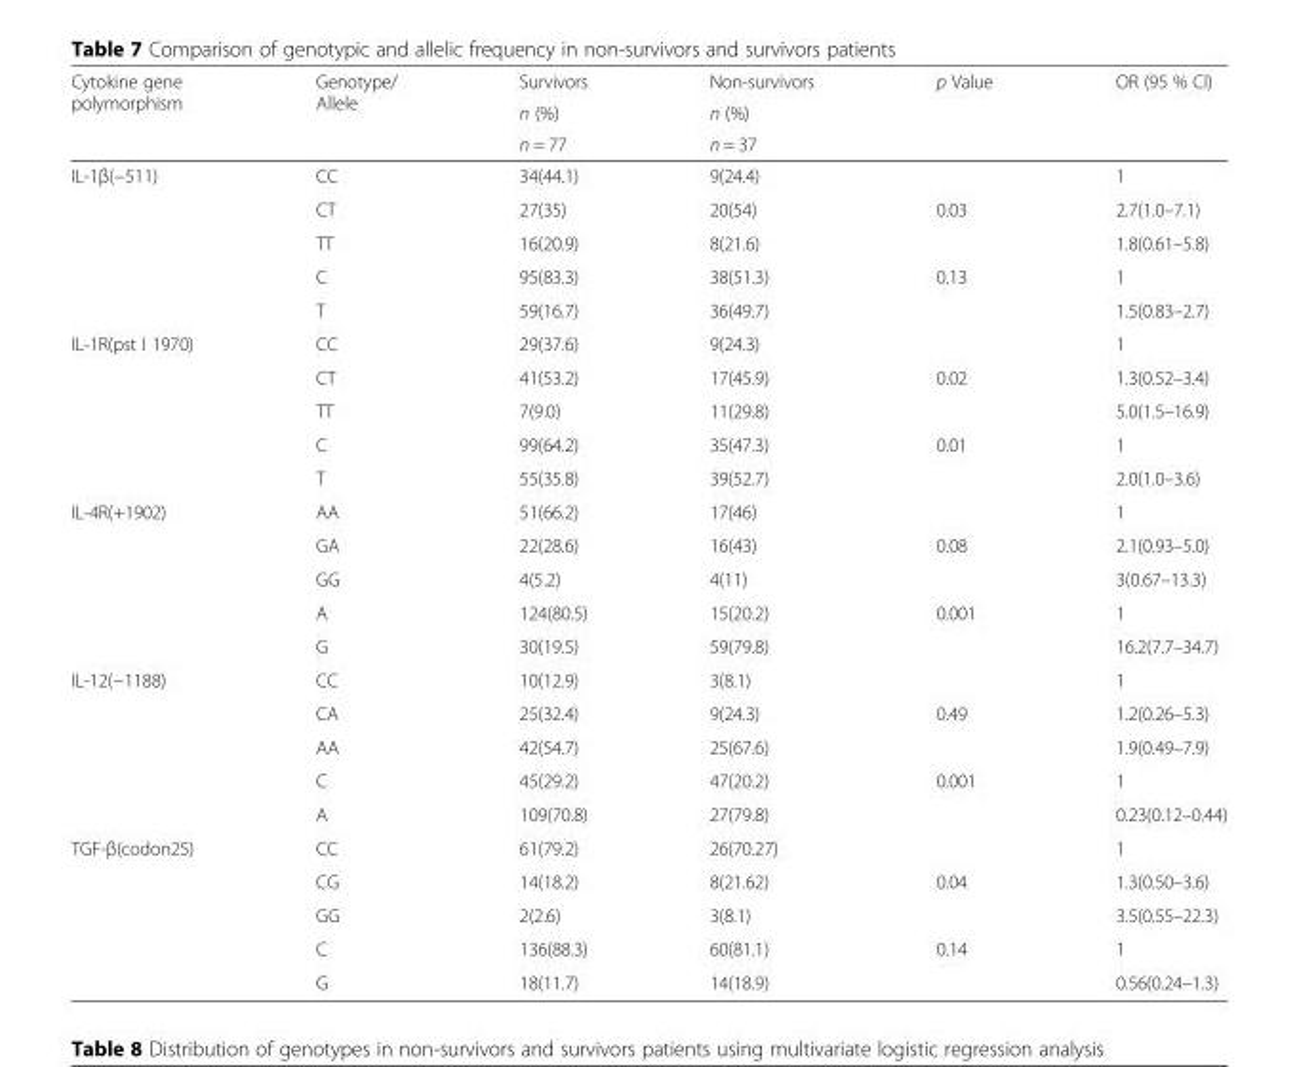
<table><thead><tr><td rowspan="3">Cytokine gene polymorphism</td><td rowspan="3">Genotype/ Allele</td><td rowspan="3">Survivors n (%) n = 77</td><td rowspan="3">Non-survivors n (%) n = 37</td><td rowspan="3">p Value</td><td rowspan="3">OR (95 % CI)</td></tr><tr></tr><tr></tr></thead><tbody><tr><td rowspan="5">IL-1β(−511)</td><td>CC</td><td>34(44.1)</td><td>9(24.4)</td><td></td><td>1</td></tr><tr><td>CT</td><td>27(35)</td><td>20(54)</td><td>0.03</td><td>2.7(1.0–7.1)</td></tr><tr><td>TT</td><td>16(20.9)</td><td>8(21.6)</td><td></td><td>1.8(0.61–5.8)</td></tr><tr><td>C</td><td>95(83.3)</td><td>38(51.3)</td><td>0.13</td><td>1</td></tr><tr><td>T</td><td>59(16.7)</td><td>36(49.7)</td><td></td><td>1.5(0.83–2.7)</td></tr><tr><td rowspan="5">IL-1R(pst I 1970)</td><td>CC</td><td>29(37.6)</td><td>9(24.3)</td><td></td><td>1</td></tr><tr><td>CT</td><td>41(53.2)</td><td>17(45.9)</td><td>0.02</td><td>1.3(0.52–3.4)</td></tr><tr><td>TT</td><td>7(9.0)</td><td>11(29.8)</td><td></td><td>5.0(1.5–16.9)</td></tr><tr><td>C</td><td>99(64.2)</td><td>35(47.3)</td><td>0.01</td><td>1</td></tr><tr><td>T</td><td>55(35.8)</td><td>39(52.7)</td><td></td><td>2.0(1.0–3.6)</td></tr><tr><td rowspan="5">IL-4R(+1902)</td><td>AA</td><td>51(66.2)</td><td>17(46)</td><td></td><td>1</td></tr><tr><td>GA</td><td>22(28.6)</td><td>16(43)</td><td>0.08</td><td>2.1(0.93–5.0)</td></tr><tr><td>GG</td><td>4(5.2)</td><td>4(11)</td><td></td><td>3(0.67–13.3)</td></tr><tr><td>A</td><td>124(80.5)</td><td>15(20.2)</td><td>0.001</td><td>1</td></tr><tr><td>G</td><td>30(19.5)</td><td>59(79.8)</td><td></td><td>16.2(7.7–34.7)</td></tr><tr><td rowspan="5">IL-12(−1188)</td><td>CC</td><td>10(12.9)</td><td>3(8.1)</td><td></td><td>1</td></tr><tr><td>CA</td><td>25(32.4)</td><td>9(24.3)</td><td>0.49</td><td>1.2(0.26–5.3)</td></tr><tr><td>AA</td><td>42(54.7)</td><td>25(67.6)</td><td></td><td>1.9(0.49–7.9)</td></tr><tr><td>C</td><td>45(29.2)</td><td>47(20.2)</td><td>0.001</td><td>1</td></tr><tr><td>A</td><td>109(70.8)</td><td>27(79.8)</td><td></td><td>0.23(0.12–0.44)</td></tr><tr><td rowspan="5">TGF-β(codon25)</td><td>CC</td><td>61(79.2)</td><td>26(70.27)</td><td></td><td>1</td></tr><tr><td>CG</td><td>14(18.2)</td><td>8(21.62)</td><td>0.04</td><td>1.3(0.50–3.6)</td></tr><tr><td>GG</td><td>2(2.6)</td><td>3(8.1)</td><td></td><td>3.5(0.55–22.3)</td></tr><tr><td>C</td><td>136(88.3)</td><td>60(81.1)</td><td>0.14</td><td>1</td></tr><tr><td>G</td><td>18(11.7)</td><td>14(18.9)</td><td></td><td>0.56(0.24–1.3)</td></tr></tbody></table>